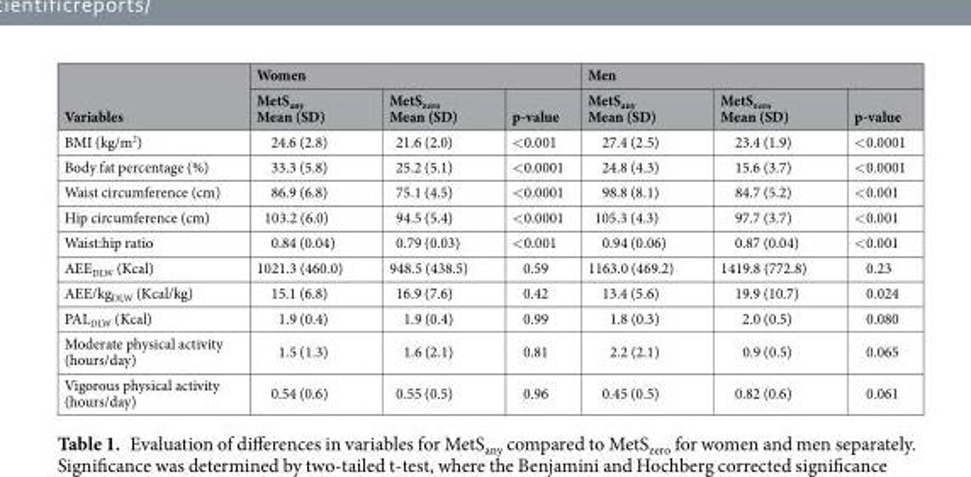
<table><thead><tr><td rowspan="2">Variables</td><td colspan="3">Women</td><td colspan="3">Men</td></tr><tr><td>MetS<sub>any</sub> Mean (SD)</td><td>MetS<sub>zero</sub> Mean (SD)</td><td>p-value</td><td>MetS<sub>any</sub> Mean (SD)</td><td>MetS<sub>zero</sub> Mean (SD)</td><td>p-value</td></tr></thead><tbody><tr><td>BMI (kg/m<sup>2</sup>)</td><td>24.6 (2.8)</td><td>21.6 (2.0)</td><td>&lt;0.001</td><td>27.4 (2.5)</td><td>23.4 (1.9)</td><td>&lt;0.0001</td></tr><tr><td>Body fat percentage (%)</td><td>33.3 (5.8)</td><td>25.2 (5.1)</td><td>&lt;0.0001</td><td>24.8 (4.3)</td><td>15.6 (3.7)</td><td>&lt;0.0001</td></tr><tr><td>Waist circumference (cm)</td><td>86.9 (6.8)</td><td>75.1 (4.5)</td><td>&lt;0.0001</td><td>98.8 (8.1)</td><td>84.7 (5.2)</td><td>&lt;0.001</td></tr><tr><td>Hip circumference (cm)</td><td>103.2 (6.0)</td><td>94.5 (5.4)</td><td>&lt;0.0001</td><td>105.3 (4.3)</td><td>97.7 (3.7)</td><td>&lt;0.001</td></tr><tr><td>Waist:hip ratio</td><td>0.84 (0.04)</td><td>0.79 (0.03)</td><td>&lt;0.001</td><td>0.94 (0.06)</td><td>0.87 (0.04)</td><td>&lt;0.001</td></tr><tr><td>AEE<sub>DLW</sub> (Kcal)</td><td>1021.3 (460.0)</td><td>948.5 (438.5)</td><td>0.59</td><td>1163.0 (469.2)</td><td>1419.8 (772.8)</td><td>0.23</td></tr><tr><td>AEE/kg<sub>DLW</sub> (Kcal/kg)</td><td>15.1 (6.8)</td><td>16.9 (7.6)</td><td>0.42</td><td>13.4 (5.6)</td><td>19.9 (10.7)</td><td>0.024</td></tr><tr><td>PAL<sub>DLW</sub> (Kcal)</td><td>1.9 (0.4)</td><td>1.9 (0.4)</td><td>0.99</td><td>1.8 (0.3)</td><td>2.0 (0.5)</td><td>0.080</td></tr><tr><td>Moderate physical activity (hours/day)</td><td>1.5 (1.3)</td><td>1.6 (2.1)</td><td>0.81</td><td>2.2 (2.1)</td><td>0.9 (0.5)</td><td>0.065</td></tr><tr><td>Vigorous physical activity (hours/day)</td><td>0.54 (0.6)</td><td>0.55 (0.5)</td><td>0.96</td><td>0.45 (0.5)</td><td>0.82 (0.6)</td><td>0.061</td></tr></tbody></table>